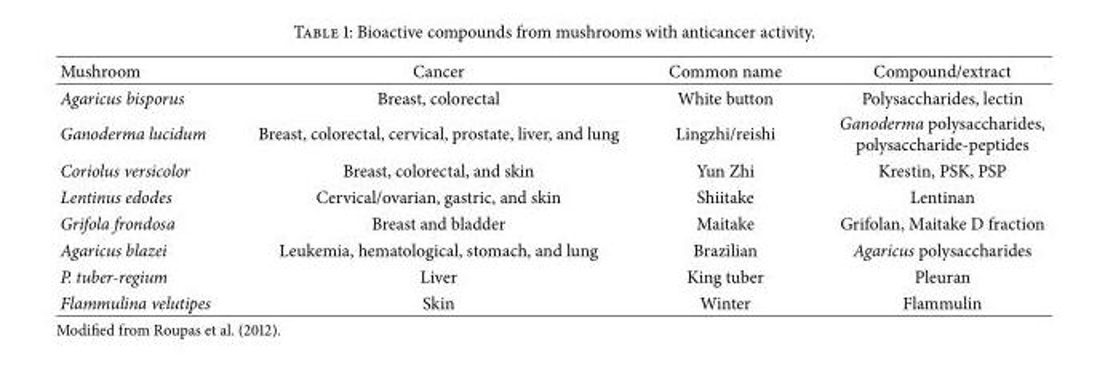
<table><thead><tr><td>Mushroom</td><td>Cancer</td><td>Common name</td><td>Compound/extract</td></tr></thead><tbody><tr><td>Agaricus bisporus</td><td>Breast, colorectal</td><td>White button</td><td>Polysaccharides, lectin</td></tr><tr><td>Ganoderma lucidum</td><td>Breast, colorectal, cervical, prostate, liver, and lung</td><td>Lingzhi/reishi</td><td>Ganoderma polysaccharides, polysaccharide-peptides</td></tr><tr><td>Coriolus versicolor</td><td>Breast, colorectal, and skin</td><td>Yun Zhi</td><td>Krestin, PSK, PSP</td></tr><tr><td>Lentinus edodes</td><td>Cervical/ovarian, gastric, and skin</td><td>Shiitake</td><td>Lentinan</td></tr><tr><td>Grifola frondosa</td><td>Breast and bladder</td><td>Maitake</td><td>Grifolan, Maitake D fraction</td></tr><tr><td>Agaricus blazei</td><td>Leukemia, hematological, stomach, and lung</td><td>Brazilian</td><td>Agaricus polysaccharides</td></tr><tr><td>P. tuber-regium</td><td>Liver</td><td>King tuber</td><td>Pleuran</td></tr><tr><td>Flammulina velutipes</td><td>Skin</td><td>Winter</td><td>Flammulin</td></tr></tbody></table>